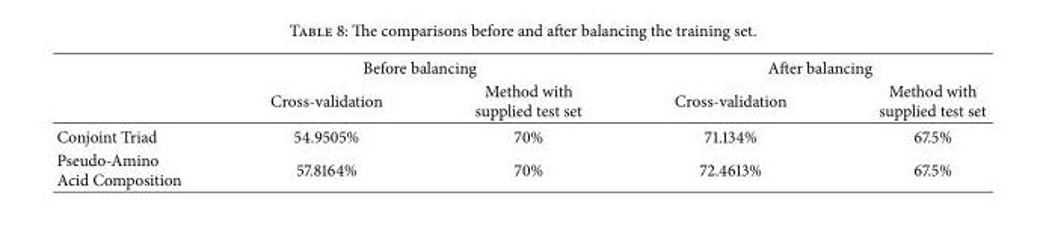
<table><thead><tr><td rowspan="2"></td><td colspan="2">Before balancing</td><td colspan="2">After balancing</td></tr><tr><td>Cross-validation</td><td>Method with supplied test set</td><td>Cross-validation</td><td>Method with supplied test set</td></tr></thead><tbody><tr><td>Conjoint Triad</td><td>54.9505%</td><td>70%</td><td>71.134%</td><td>67.5%</td></tr><tr><td>Pseudo-Amino Acid Composition</td><td>57.8164%</td><td>70%</td><td>72.4613%</td><td>67.5%</td></tr></tbody></table>